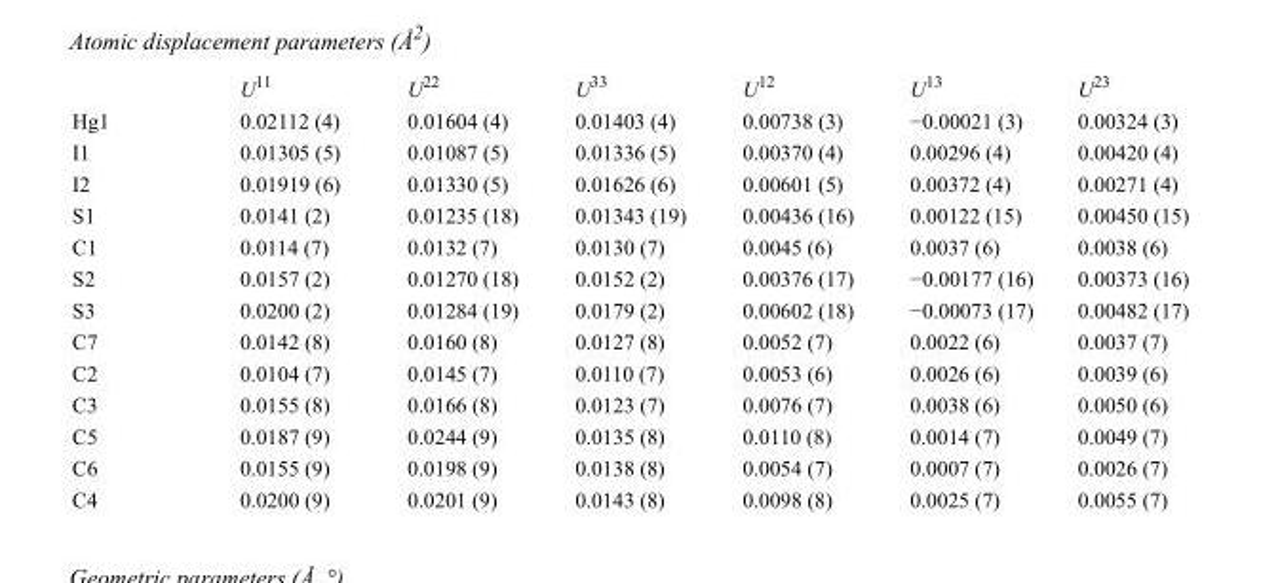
<table><thead><tr><td></td><td>U<sup>11</sup></td><td>U<sup>22</sup></td><td>U<sup>33</sup></td><td>U<sup>12</sup></td><td>U<sup>13</sup></td><td>U<sup>23</sup></td></tr></thead><tbody><tr><td>Hg1</td><td>0.02112 (4)</td><td>0.01604 (4)</td><td>0.01403 (4)</td><td>0.00738 (3)</td><td>−0.00021 (3)</td><td>0.00324 (3)</td></tr><tr><td>I1</td><td>0.01305 (5)</td><td>0.01087 (5)</td><td>0.01336 (5)</td><td>0.00370 (4)</td><td>0.00296 (4)</td><td>0.00420 (4)</td></tr><tr><td>I2</td><td>0.01919 (6)</td><td>0.01330 (5)</td><td>0.01626 (6)</td><td>0.00601 (5)</td><td>0.00372 (4)</td><td>0.00271 (4)</td></tr><tr><td>S1</td><td>0.0141 (2)</td><td>0.01235 (18)</td><td>0.01343 (19)</td><td>0.00436 (16)</td><td>0.00122 (15)</td><td>0.00450 (15)</td></tr><tr><td>C1</td><td>0.0114 (7)</td><td>0.0132 (7)</td><td>0.0130 (7)</td><td>0.0045 (6)</td><td>0.0037 (6)</td><td>0.0038 (6)</td></tr><tr><td>S2</td><td>0.0157 (2)</td><td>0.01270 (18)</td><td>0.0152 (2)</td><td>0.00376 (17)</td><td>−0.00177 (16)</td><td>0.00373 (16)</td></tr><tr><td>S3</td><td>0.0200 (2)</td><td>0.01284 (19)</td><td>0.0179 (2)</td><td>0.00602 (18)</td><td>−0.00073 (17)</td><td>0.00482 (17)</td></tr><tr><td>C7</td><td>0.0142 (8)</td><td>0.0160 (8)</td><td>0.0127 (8)</td><td>0.0052 (7)</td><td>0.0022 (6)</td><td>0.0037 (7)</td></tr><tr><td>C2</td><td>0.0104 (7)</td><td>0.0145 (7)</td><td>0.0110 (7)</td><td>0.0053 (6)</td><td>0.0026 (6)</td><td>0.0039 (6)</td></tr><tr><td>C3</td><td>0.0155 (8)</td><td>0.0166 (8)</td><td>0.0123 (7)</td><td>0.0076 (7)</td><td>0.0038 (6)</td><td>0.0050 (6)</td></tr><tr><td>C5</td><td>0.0187 (9)</td><td>0.0244 (9)</td><td>0.0135 (8)</td><td>0.0110 (8)</td><td>0.0014 (7)</td><td>0.0049 (7)</td></tr><tr><td>C6</td><td>0.0155 (9)</td><td>0.0198 (9)</td><td>0.0138 (8)</td><td>0.0054 (7)</td><td>0.0007 (7)</td><td>0.0026 (7)</td></tr><tr><td>C4</td><td>0.0200 (9)</td><td>0.0201 (9)</td><td>0.0143 (8)</td><td>0.0098 (8)</td><td>0.0025 (7)</td><td>0.0055 (7)</td></tr></tbody></table>